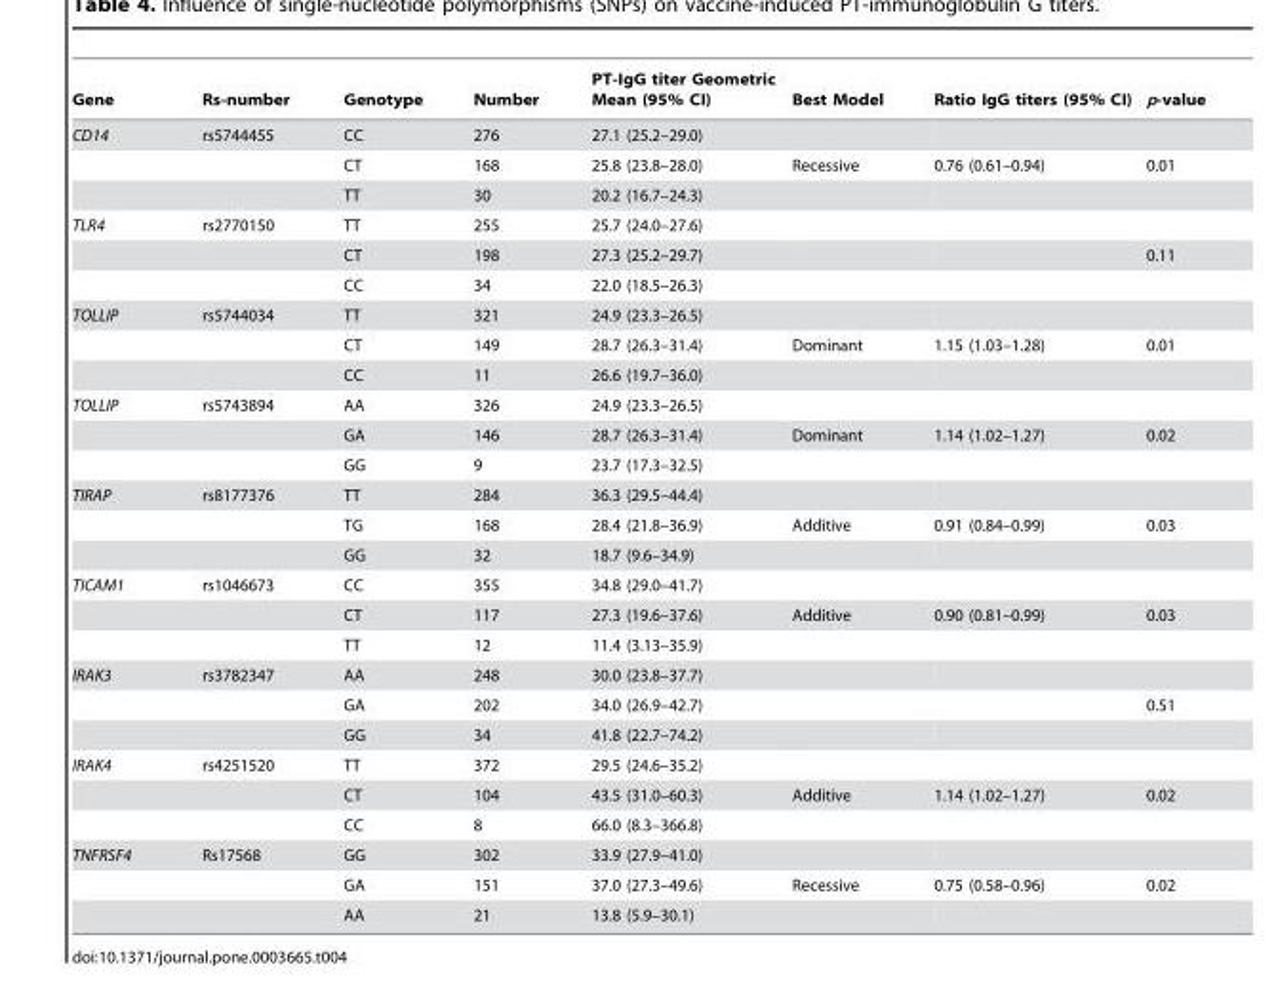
<table><thead><tr><td>Gene</td><td>Rs-number</td><td>Genotype</td><td>Number</td><td>PT-IgG titer Geometric Mean (95% CI)</td><td>Best Model</td><td>Ratio IgG titers (95% CI)</td><td>p-value</td></tr></thead><tbody><tr><td rowspan="3">CD14</td><td>rs5744455</td><td>CC</td><td>276</td><td>27.1 (25.2–29.0)</td><td></td><td></td><td></td></tr><tr><td></td><td>CT</td><td>168</td><td>25.8 (23.8–28.0)</td><td>Recessive</td><td>0.76 (0.61–0.94)</td><td>0.01</td></tr><tr><td></td><td>TT</td><td>30</td><td>20.2 (16.7–24.3)</td><td></td><td></td><td></td></tr><tr><td rowspan="3">TLR4</td><td>rs2770150</td><td>TT</td><td>255</td><td>25.7 (24.0–27.6)</td><td></td><td></td><td></td></tr><tr><td></td><td>CT</td><td>198</td><td>27.3 (25.2–29.7)</td><td></td><td></td><td>0.11</td></tr><tr><td></td><td>CC</td><td>34</td><td>22.0 (18.5–26.3)</td><td></td><td></td><td></td></tr><tr><td rowspan="3">TOLLIP</td><td>rs5744034</td><td>TT</td><td>321</td><td>24.9 (23.3–26.5)</td><td></td><td></td><td></td></tr><tr><td></td><td>CT</td><td>149</td><td>28.7 (26.3–31.4)</td><td>Dominant</td><td>1.15 (1.03–1.28)</td><td>0.01</td></tr><tr><td></td><td>CC</td><td>11</td><td>26.6 (19.7–36.0)</td><td></td><td></td><td></td></tr><tr><td rowspan="3">TOLLIP</td><td>rs5743894</td><td>AA</td><td>326</td><td>24.9 (23.3–26.5)</td><td></td><td></td><td></td></tr><tr><td></td><td>GA</td><td>146</td><td>28.7 (26.3–31.4)</td><td>Dominant</td><td>1.14 (1.02–1.27)</td><td>0.02</td></tr><tr><td></td><td>GG</td><td>9</td><td>23.7 (17.3–32.5)</td><td></td><td></td><td></td></tr><tr><td rowspan="3">TIRAP</td><td>rs8177376</td><td>TT</td><td>284</td><td>36.3 (29.5–44.4)</td><td></td><td></td><td></td></tr><tr><td></td><td>TG</td><td>168</td><td>28.4 (21.8–36.9)</td><td>Additive</td><td>0.91 (0.84–0.99)</td><td>0.03</td></tr><tr><td></td><td>GG</td><td>32</td><td>18.7 (9.6–34.9)</td><td></td><td></td><td></td></tr><tr><td rowspan="3">TICAM1</td><td>rs1046673</td><td>CC</td><td>355</td><td>34.8 (29.0–41.7)</td><td></td><td></td><td></td></tr><tr><td></td><td>CT</td><td>117</td><td>27.3 (19.6–37.6)</td><td>Additive</td><td>0.90 (0.81–0.99)</td><td>0.03</td></tr><tr><td></td><td>TT</td><td>12</td><td>11.4 (3.13–35.9)</td><td></td><td></td><td></td></tr><tr><td rowspan="3">IRAK3</td><td>rs3782347</td><td>AA</td><td>248</td><td>30.0 (23.8–37.7)</td><td></td><td></td><td></td></tr><tr><td></td><td>GA</td><td>202</td><td>34.0 (26.9–42.7)</td><td></td><td></td><td>0.51</td></tr><tr><td></td><td>GG</td><td>34</td><td>41.8 (22.7–74.2)</td><td></td><td></td><td></td></tr><tr><td rowspan="3">IRAK4</td><td>rs4251520</td><td>TT</td><td>372</td><td>29.5 (24.6–35.2)</td><td></td><td></td><td></td></tr><tr><td></td><td>CT</td><td>104</td><td>43.5 (31.0–60.3)</td><td>Additive</td><td>1.14 (1.02–1.27)</td><td>0.02</td></tr><tr><td></td><td>CC</td><td>8</td><td>66.0 (8.3–366.8)</td><td></td><td></td><td></td></tr><tr><td rowspan="3">TNFRSF4</td><td>Rs17568</td><td>GG</td><td>302</td><td>33.9 (27.9–41.0)</td><td></td><td></td><td></td></tr><tr><td></td><td>GA</td><td>151</td><td>37.0 (27.3–49.6)</td><td>Recessive</td><td>0.75 (0.58–0.96)</td><td>0.02</td></tr><tr><td></td><td>AA</td><td>21</td><td>13.8 (5.9–30.1)</td><td></td><td></td><td></td></tr></tbody></table>